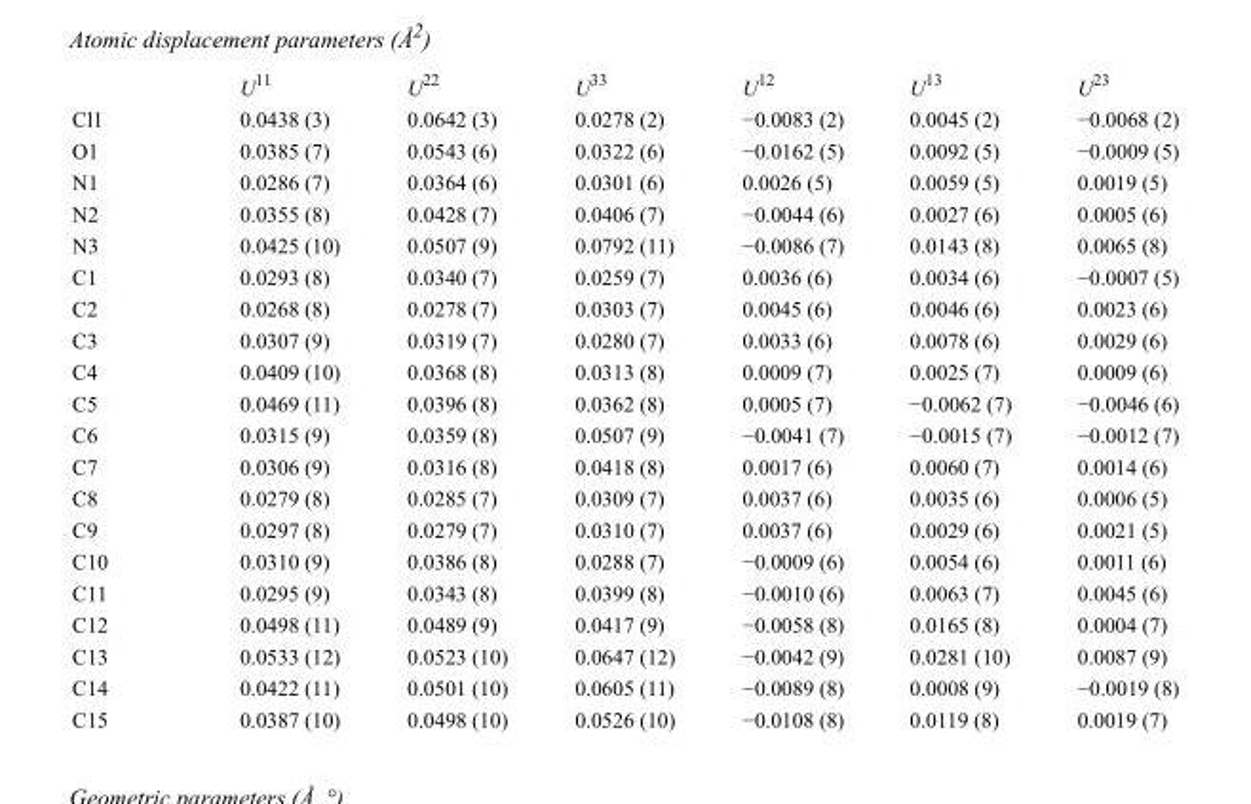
<table><thead><tr><td></td><td>U<sup>11</sup></td><td>U<sup>22</sup></td><td>U<sup>33</sup></td><td>U<sup>12</sup></td><td>U<sup>13</sup></td><td>U<sup>23</sup></td></tr></thead><tbody><tr><td>Cl1</td><td>0.0438 (3)</td><td>0.0642 (3)</td><td>0.0278 (2)</td><td>−0.0083 (2)</td><td>0.0045 (2)</td><td>−0.0068 (2)</td></tr><tr><td>O1</td><td>0.0385 (7)</td><td>0.0543 (6)</td><td>0.0322 (6)</td><td>−0.0162 (5)</td><td>0.0092 (5)</td><td>−0.0009 (5)</td></tr><tr><td>N1</td><td>0.0286 (7)</td><td>0.0364 (6)</td><td>0.0301 (6)</td><td>0.0026 (5)</td><td>0.0059 (5)</td><td>0.0019 (5)</td></tr><tr><td>N2</td><td>0.0355 (8)</td><td>0.0428 (7)</td><td>0.0406 (7)</td><td>−0.0044 (6)</td><td>0.0027 (6)</td><td>0.0005 (6)</td></tr><tr><td>N3</td><td>0.0425 (10)</td><td>0.0507 (9)</td><td>0.0792 (11)</td><td>−0.0086 (7)</td><td>0.0143 (8)</td><td>0.0065 (8)</td></tr><tr><td>C1</td><td>0.0293 (8)</td><td>0.0340 (7)</td><td>0.0259 (7)</td><td>0.0036 (6)</td><td>0.0034 (6)</td><td>−0.0007 (5)</td></tr><tr><td>C2</td><td>0.0268 (8)</td><td>0.0278 (7)</td><td>0.0303 (7)</td><td>0.0045 (6)</td><td>0.0046 (6)</td><td>0.0023 (6)</td></tr><tr><td>C3</td><td>0.0307 (9)</td><td>0.0319 (7)</td><td>0.0280 (7)</td><td>0.0033 (6)</td><td>0.0078 (6)</td><td>0.0029 (6)</td></tr><tr><td>C4</td><td>0.0409 (10)</td><td>0.0368 (8)</td><td>0.0313 (8)</td><td>0.0009 (7)</td><td>0.0025 (7)</td><td>0.0009 (6)</td></tr><tr><td>C5</td><td>0.0469 (11)</td><td>0.0396 (8)</td><td>0.0362 (8)</td><td>0.0005 (7)</td><td>−0.0062 (7)</td><td>−0.0046 (6)</td></tr><tr><td>C6</td><td>0.0315 (9)</td><td>0.0359 (8)</td><td>0.0507 (9)</td><td>−0.0041 (7)</td><td>−0.0015 (7)</td><td>−0.0012 (7)</td></tr><tr><td>C7</td><td>0.0306 (9)</td><td>0.0316 (8)</td><td>0.0418 (8)</td><td>0.0017 (6)</td><td>0.0060 (7)</td><td>0.0014 (6)</td></tr><tr><td>C8</td><td>0.0279 (8)</td><td>0.0285 (7)</td><td>0.0309 (7)</td><td>0.0037 (6)</td><td>0.0035 (6)</td><td>0.0006 (5)</td></tr><tr><td>C9</td><td>0.0297 (8)</td><td>0.0279 (7)</td><td>0.0310 (7)</td><td>0.0037 (6)</td><td>0.0029 (6)</td><td>0.0021 (5)</td></tr><tr><td>C10</td><td>0.0310 (9)</td><td>0.0386 (8)</td><td>0.0288 (7)</td><td>−0.0009 (6)</td><td>0.0054 (6)</td><td>0.0011 (6)</td></tr><tr><td>C11</td><td>0.0295 (9)</td><td>0.0343 (8)</td><td>0.0399 (8)</td><td>−0.0010 (6)</td><td>0.0063 (7)</td><td>0.0045 (6)</td></tr><tr><td>C12</td><td>0.0498 (11)</td><td>0.0489 (9)</td><td>0.0417 (9)</td><td>−0.0058 (8)</td><td>0.0165 (8)</td><td>0.0004 (7)</td></tr><tr><td>C13</td><td>0.0533 (12)</td><td>0.0523 (10)</td><td>0.0647 (12)</td><td>−0.0042 (9)</td><td>0.0281 (10)</td><td>0.0087 (9)</td></tr><tr><td>C14</td><td>0.0422 (11)</td><td>0.0501 (10)</td><td>0.0605 (11)</td><td>−0.0089 (8)</td><td>0.0008 (9)</td><td>−0.0019 (8)</td></tr><tr><td>C15</td><td>0.0387 (10)</td><td>0.0498 (10)</td><td>0.0526 (10)</td><td>−0.0108 (8)</td><td>0.0119 (8)</td><td>0.0019 (7)</td></tr></tbody></table>